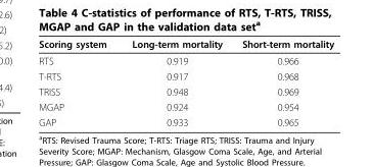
<table><thead><tr><td>Scoring system</td><td>Long-term mortality</td><td>Short-term mortality</td></tr></thead><tbody><tr><td>RTS</td><td>0.919</td><td>0.966</td></tr><tr><td>T-RTS</td><td>0.917</td><td>0.968</td></tr><tr><td>TRISS</td><td>0.948</td><td>0.969</td></tr><tr><td>MGAP</td><td>0.924</td><td>0.954</td></tr><tr><td>GAP</td><td>0.933</td><td>0.965</td></tr></tbody></table>